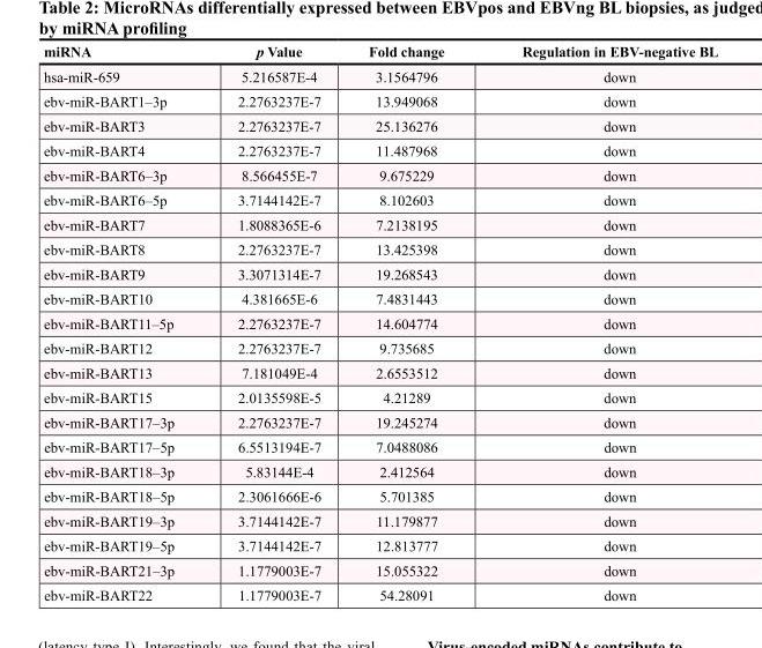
<table><thead><tr><td>miRNA</td><td>p Value</td><td>Fold change</td><td>Regulation in EBV-negative BL</td></tr></thead><tbody><tr><td>hsa-miR-659</td><td>5.216587E-4</td><td>3.1564796</td><td>down</td></tr><tr><td>ebv-miR-BART1–3p</td><td>2.2763237E-7</td><td>13.949068</td><td>down</td></tr><tr><td>ebv-miR-BART3</td><td>2.2763237E-7</td><td>25.136276</td><td>down</td></tr><tr><td>ebv-miR-BART4</td><td>2.2763237E-7</td><td>11.487968</td><td>down</td></tr><tr><td>ebv-miR-BART6–3p</td><td>8.566455E-7</td><td>9.675229</td><td>down</td></tr><tr><td>ebv-miR-BART6–5p</td><td>3.7144142E-7</td><td>8.102603</td><td>down</td></tr><tr><td>ebv-miR-BART7</td><td>1.8088365E-6</td><td>7.2138195</td><td>down</td></tr><tr><td>ebv-miR-BART8</td><td>2.2763237E-7</td><td>13.425398</td><td>down</td></tr><tr><td>ebv-miR-BART9</td><td>3.3071314E-7</td><td>19.268543</td><td>down</td></tr><tr><td>ebv-miR-BART10</td><td>4.381665E-6</td><td>7.4831443</td><td>down</td></tr><tr><td>ebv-miR-BART11–5p</td><td>2.2763237E-7</td><td>14.604774</td><td>down</td></tr><tr><td>ebv-miR-BART12</td><td>2.2763237E-7</td><td>9.735685</td><td>down</td></tr><tr><td>ebv-miR-BART13</td><td>7.181049E-4</td><td>2.6553512</td><td>down</td></tr><tr><td>ebv-miR-BART15</td><td>2.0135598E-5</td><td>4.21289</td><td>down</td></tr><tr><td>ebv-miR-BART17–3p</td><td>2.2763237E-7</td><td>19.245274</td><td>down</td></tr><tr><td>ebv-miR-BART17–5p</td><td>6.5513194E-7</td><td>7.0488086</td><td>down</td></tr><tr><td>ebv-miR-BART18–3p</td><td>5.83144E-4</td><td>2.412564</td><td>down</td></tr><tr><td>ebv-miR-BART18–5p</td><td>2.3061666E-6</td><td>5.701385</td><td>down</td></tr><tr><td>ebv-miR-BART19–3p</td><td>3.7144142E-7</td><td>11.179877</td><td>down</td></tr><tr><td>ebv-miR-BART19–5p</td><td>3.7144142E-7</td><td>12.813777</td><td>down</td></tr><tr><td>ebv-miR-BART21–3p</td><td>1.1779003E-7</td><td>15.055322</td><td>down</td></tr><tr><td>ebv-miR-BART22</td><td>1.1779003E-7</td><td>54.28091</td><td>down</td></tr></tbody></table>